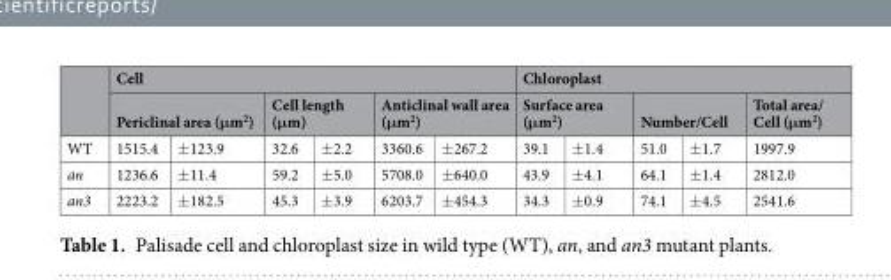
<table><thead><tr><td rowspan="3">WT</td><td colspan="6">Cell</td><td colspan="5">Chloroplast</td></tr><tr><td colspan="2">Periclinal area (μm<sup>2</sup>)</td><td colspan="2">Cell length (μm)</td><td colspan="2">Anticlinal wall area (μm<sup>2</sup>)</td><td colspan="2">Surface area (μm<sup>2</sup>)</td><td colspan="2">Number/Cell</td><td rowspan="2">Total area/ Cell (μm<sup>2</sup>) 1997.9</td></tr><tr><td>1515.4</td><td>±123.9</td><td>32.6</td><td>±2.2</td><td>3360.6</td><td>±267.2</td><td>39.1</td><td>±1.4</td><td>51.0</td><td>±1.7</td></tr></thead><tbody><tr><td>an</td><td>1236.6</td><td>±11.4</td><td>59.2</td><td>±5.0</td><td>5708.0</td><td>±640.0</td><td>43.9</td><td>±4.1</td><td>64.1</td><td>±1.4</td><td>2812.0</td></tr><tr><td>an3</td><td>2223.2</td><td>±182.5</td><td>45.3</td><td>±3.9</td><td>6203.7</td><td>±454.3</td><td>34.3</td><td>±0.9</td><td>74.1</td><td>±4.5</td><td>2541.6</td></tr></tbody></table>